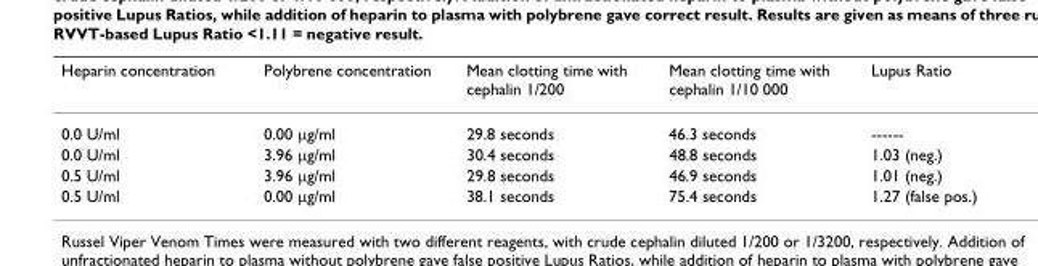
<table><thead><tr><td>Heparin concentration</td><td>Polybrene concentration</td><td>Mean clotting time with cephalin 1/200</td><td>Mean clotting time with cephalin 1/10 000</td><td>Lupus Ratio</td></tr></thead><tbody><tr><td>0.0 U/ml</td><td>0.00 µg/ml</td><td>29.8 seconds</td><td>46.3 seconds</td><td>------</td></tr><tr><td>0.0 U/ml</td><td>3.96 µg/ml</td><td>30.4 seconds</td><td>48.8 seconds</td><td>1.03 (neg.)</td></tr><tr><td>0.5 U/ml</td><td>3.96 µg/ml</td><td>29.8 seconds</td><td>46.9 seconds</td><td>1.01 (neg.)</td></tr><tr><td>0.5 U/ml</td><td>0.00 µg/ml</td><td>38.1 seconds</td><td>75.4 seconds</td><td>1.27 (false pos.)</td></tr></tbody></table>